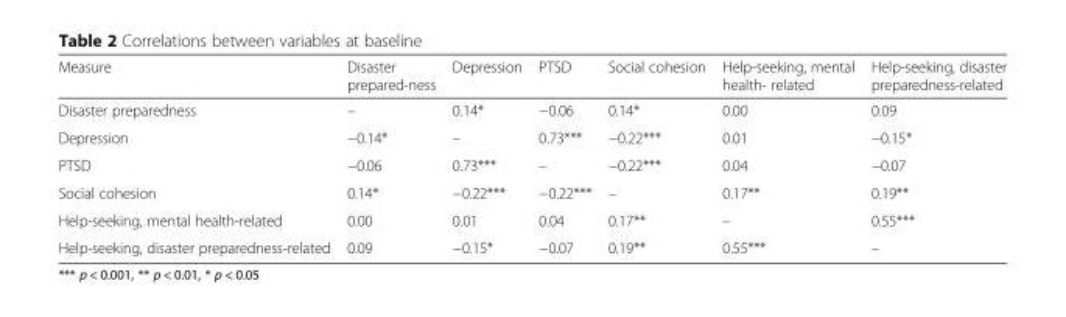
<table><thead><tr><td>Measure</td><td>Disaster prepared-ness</td><td>Depression</td><td>PTSD</td><td>Social cohesion</td><td>Help-seeking, mental health- related</td><td>Help-seeking, disaster preparedness-related</td></tr></thead><tbody><tr><td>Disaster preparedness</td><td>–</td><td>0.14*</td><td>−0.06</td><td>0.14*</td><td>0.00</td><td>0.09</td></tr><tr><td>Depression</td><td>−0.14*</td><td>–</td><td>0.73***</td><td>−0.22***</td><td>0.01</td><td>−0.15*</td></tr><tr><td>PTSD</td><td>−0.06</td><td>0.73***</td><td>–</td><td>−0.22***</td><td>0.04</td><td>−0.07</td></tr><tr><td>Social cohesion</td><td>0.14*</td><td>−0.22***</td><td>−0.22***</td><td>–</td><td>0.17**</td><td>0.19**</td></tr><tr><td>Help-seeking, mental health-related</td><td>0.00</td><td>0.01</td><td>0.04</td><td>0.17**</td><td>–</td><td>0.55***</td></tr><tr><td>Help-seeking, disaster preparedness-related</td><td>0.09</td><td>−0.15*</td><td>−0.07</td><td>0.19**</td><td>0.55***</td><td>–</td></tr></tbody></table>